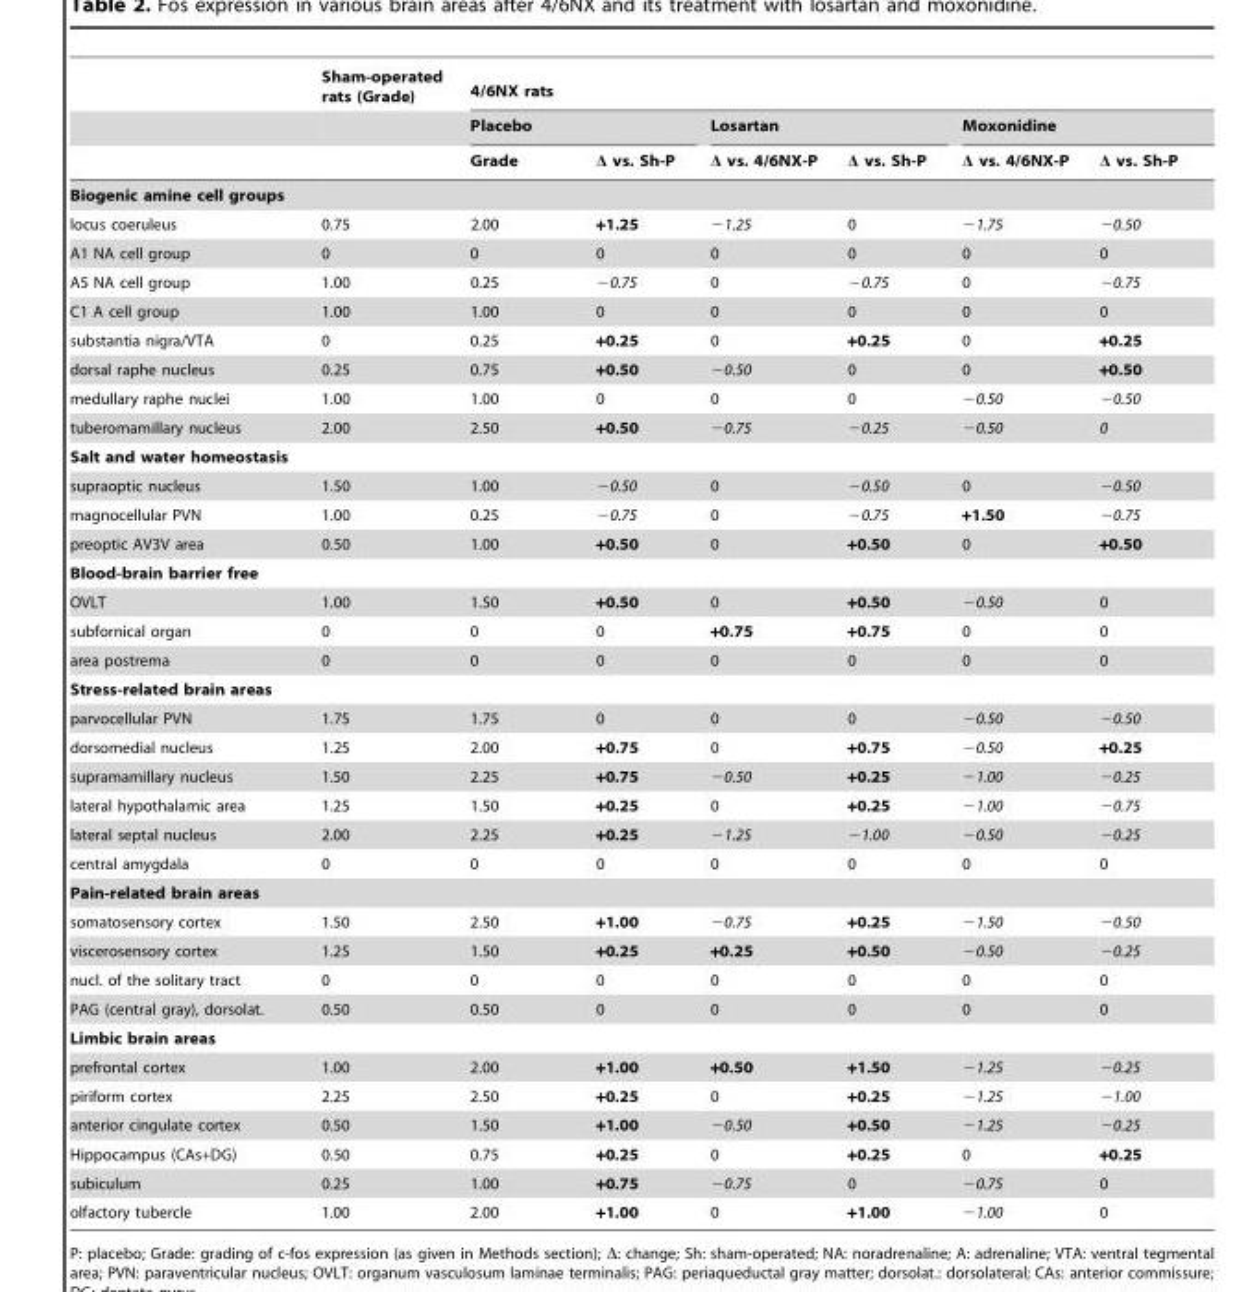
<table><thead><tr><td rowspan="3"></td><td rowspan="3">Sham-operated rats (Grade)</td><td colspan="6">4/6NX rats</td></tr><tr><td colspan="2">Placebo</td><td colspan="2">Losartan</td><td colspan="2">Moxonidine</td></tr><tr><td>Grade</td><td>Δ vs. Sh-P</td><td>Δ vs. 4/6NX-P</td><td>Δ vs. Sh-P</td><td>Δ vs. 4/6NX-P</td><td>Δ vs. Sh-P</td></tr></thead><tbody><tr><td colspan="8">Biogenic amine cell groups</td></tr><tr><td>locus coeruleus</td><td>0.75</td><td>2.00</td><td>+1.25</td><td>−1.25</td><td>0</td><td>−1.75</td><td>−0.50</td></tr><tr><td>A1 NA cell group</td><td>0</td><td>0</td><td>0</td><td>0</td><td>0</td><td>0</td><td>0</td></tr><tr><td>A5 NA cell group</td><td>1.00</td><td>0.25</td><td>−0.75</td><td>0</td><td>−0.75</td><td>0</td><td>−0.75</td></tr><tr><td>C1 A cell group</td><td>1.00</td><td>1.00</td><td>0</td><td>0</td><td>0</td><td>0</td><td>0</td></tr><tr><td>substantia nigra/VTA</td><td>0</td><td>0.25</td><td>+0.25</td><td>0</td><td>+0.25</td><td>0</td><td>+0.25</td></tr><tr><td>dorsal raphe nucleus</td><td>0.25</td><td>0.75</td><td>+0.50</td><td>−0.50</td><td>0</td><td>0</td><td>+0.50</td></tr><tr><td>medullary raphe nuclei</td><td>1.00</td><td>1.00</td><td>0</td><td>0</td><td>0</td><td>−0.50</td><td>−0.50</td></tr><tr><td>tuberomamillary nucleus</td><td>2.00</td><td>2.50</td><td>+0.50</td><td>−0.75</td><td>−0.25</td><td>−0.50</td><td>0</td></tr><tr><td colspan="8">Salt and water homeostasis</td></tr><tr><td>supraoptic nucleus</td><td>1.50</td><td>1.00</td><td>−0.50</td><td>0</td><td>−0.50</td><td>0</td><td>−0.50</td></tr><tr><td>magnocellular PVN</td><td>1.00</td><td>0.25</td><td>−0.75</td><td>0</td><td>−0.75</td><td>+1.50</td><td>−0.75</td></tr><tr><td>preoptic AV3V area</td><td>0.50</td><td>1.00</td><td>+0.50</td><td>0</td><td>+0.50</td><td>0</td><td>+0.50</td></tr><tr><td colspan="8">Blood-brain barrier free</td></tr><tr><td>OVLT</td><td>1.00</td><td>1.50</td><td>+0.50</td><td>0</td><td>+0.50</td><td>−0.50</td><td>0</td></tr><tr><td>subfornical organ</td><td>0</td><td>0</td><td>0</td><td>+0.75</td><td>+0.75</td><td>0</td><td>0</td></tr><tr><td>area postrema</td><td>0</td><td>0</td><td>0</td><td>0</td><td>0</td><td>0</td><td>0</td></tr><tr><td colspan="8">Stress-related brain areas</td></tr><tr><td>parvocellular PVN</td><td>1.75</td><td>1.75</td><td>0</td><td>0</td><td>0</td><td>−0.50</td><td>−0.50</td></tr><tr><td>dorsomedial nucleus</td><td>1.25</td><td>2.00</td><td>+0.75</td><td>0</td><td>+0.75</td><td>−0.50</td><td>+0.25</td></tr><tr><td>supramamillary nucleus</td><td>1.50</td><td>2.25</td><td>+0.75</td><td>−0.50</td><td>+0.25</td><td>−1.00</td><td>−0.25</td></tr><tr><td>lateral hypothalamic area</td><td>1.25</td><td>1.50</td><td>+0.25</td><td>0</td><td>+0.25</td><td>−1.00</td><td>−0.75</td></tr><tr><td>lateral septal nucleus</td><td>2.00</td><td>2.25</td><td>+0.25</td><td>−1.25</td><td>−1.00</td><td>−0.50</td><td>−0.25</td></tr><tr><td>central amygdala</td><td>0</td><td>0</td><td>0</td><td>0</td><td>0</td><td>0</td><td>0</td></tr><tr><td colspan="8">Pain-related brain areas</td></tr><tr><td>somatosensory cortex</td><td>1.50</td><td>2.50</td><td>+1.00</td><td>−0.75</td><td>+0.25</td><td>−1.50</td><td>−0.50</td></tr><tr><td>viscerosensory cortex</td><td>1.25</td><td>1.50</td><td>+0.25</td><td>+0.25</td><td>+0.50</td><td>−0.50</td><td>−0.25</td></tr><tr><td>nucl. of the solitary tract</td><td>0</td><td>0</td><td>0</td><td>0</td><td>0</td><td>0</td><td>0</td></tr><tr><td>PAG (central gray), dorsolat.</td><td>0.50</td><td>0.50</td><td>0</td><td>0</td><td>0</td><td>0</td><td>0</td></tr><tr><td colspan="8">Limbic brain areas</td></tr><tr><td>prefrontal cortex</td><td>1.00</td><td>2.00</td><td>+1.00</td><td>+0.50</td><td>+1.50</td><td>−1.25</td><td>−0.25</td></tr><tr><td>piriform cortex</td><td>2.25</td><td>2.50</td><td>+0.25</td><td>0</td><td>+0.25</td><td>−1.25</td><td>−1.00</td></tr><tr><td>anterior cingulate cortex</td><td>0.50</td><td>1.50</td><td>+1.00</td><td>−0.50</td><td>+0.50</td><td>−1.25</td><td>−0.25</td></tr><tr><td>Hippocampus (CAs+DG)</td><td>0.50</td><td>0.75</td><td>+0.25</td><td>0</td><td>+0.25</td><td>0</td><td>+0.25</td></tr><tr><td>subiculum</td><td>0.25</td><td>1.00</td><td>+0.75</td><td>−0.75</td><td>0</td><td>−0.75</td><td>0</td></tr><tr><td>olfactory tubercle</td><td>1.00</td><td>2.00</td><td>+1.00</td><td>0</td><td>+1.00</td><td>−1.00</td><td>0</td></tr></tbody></table>